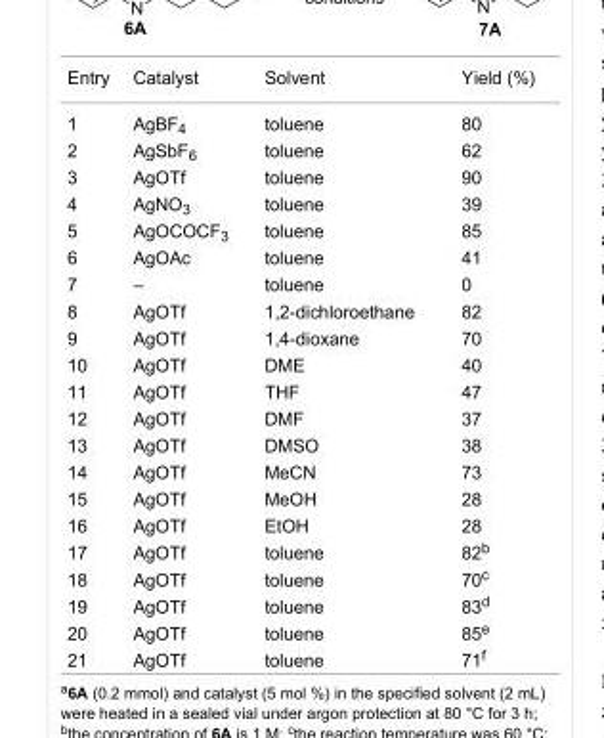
<table><tbody><tr><td>Entry</td><td>Catalyst</td><td>Solvent</td><td>Yield (%)</td></tr><tr><td>1</td><td>AgBF<sub>4</sub></td><td>toluene</td><td>80</td></tr><tr><td>2</td><td>AgSbF<sub>6</sub></td><td>toluene</td><td>62</td></tr><tr><td>3</td><td>AgOTf</td><td>toluene</td><td>90</td></tr><tr><td>4</td><td>AgNO<sub>3</sub></td><td>toluene</td><td>39</td></tr><tr><td>5</td><td>AgOCOCF<sub>3</sub></td><td>toluene</td><td>85</td></tr><tr><td>6</td><td>AgOAc</td><td>toluene</td><td>41</td></tr><tr><td>7</td><td>–</td><td>toluene</td><td>0</td></tr><tr><td>8</td><td>AgOTf</td><td>1,2-dichloroethane</td><td>82</td></tr><tr><td>9</td><td>AgOTf</td><td>1,4-dioxane</td><td>70</td></tr><tr><td>10</td><td>AgOTf</td><td>DME</td><td>40</td></tr><tr><td>11</td><td>AgOTf</td><td>THF</td><td>47</td></tr><tr><td>12</td><td>AgOTf</td><td>DMF</td><td>37</td></tr><tr><td>13</td><td>AgOTf</td><td>DMSO</td><td>38</td></tr><tr><td>14</td><td>AgOTf</td><td>MeCN</td><td>73</td></tr><tr><td>15</td><td>AgOTf</td><td>MeOH</td><td>28</td></tr><tr><td>16</td><td>AgOTf</td><td>EtOH</td><td>28</td></tr><tr><td>17</td><td>AgOTf</td><td>toluene</td><td>82<sup>b</sup></td></tr><tr><td>18</td><td>AgOTf</td><td>toluene</td><td>70<sup>c</sup></td></tr><tr><td>19</td><td>AgOTf</td><td>toluene</td><td>83<sup>d</sup></td></tr><tr><td>20</td><td>AgOTf</td><td>toluene</td><td>85<sup>e</sup></td></tr><tr><td>21</td><td>AgOTf</td><td>toluene</td><td>71<sup>f</sup></td></tr></tbody></table>